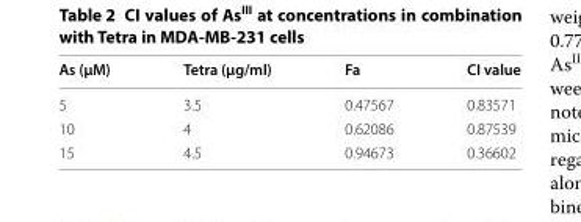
<table><thead><tr><td>As (μM)</td><td>Tetra (μg/ml)</td><td>Fa</td><td>CI value</td></tr></thead><tbody><tr><td>5</td><td>3.5</td><td>0.47567</td><td>0.83571</td></tr><tr><td>10</td><td>4</td><td>0.62086</td><td>0.87539</td></tr><tr><td>15</td><td>4.5</td><td>0.94673</td><td>0.36602</td></tr></tbody></table>